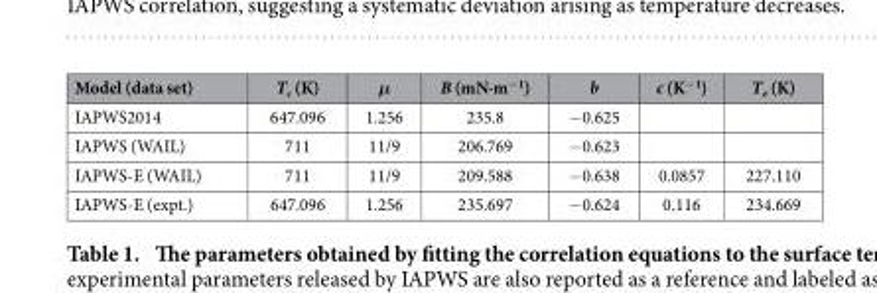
<table><thead><tr><td>Model (data set)</td><td>T<sub>c</sub> (K)</td><td>μ</td><td>B (mN·m<sup>−1</sup>)</td><td>b</td><td>c (K<sup>−1</sup>)</td><td>T<sub>e</sub> (K)</td></tr></thead><tbody><tr><td>IAPWS2014</td><td>647.096</td><td>1.256</td><td>235.8</td><td>− 0.625</td><td></td><td></td></tr><tr><td>IAPWS (WAIL)</td><td>711</td><td>11/9</td><td>206.769</td><td>− 0.623</td><td></td><td></td></tr><tr><td>IAPWS-E (WAIL)</td><td>711</td><td>11/9</td><td>209.588</td><td>− 0.638</td><td>0.0857</td><td>227.110</td></tr><tr><td>IAPWS-E (expt.)</td><td>647.096</td><td>1.256</td><td>235.697</td><td>− 0.624</td><td>0.116</td><td>234.669</td></tr></tbody></table>